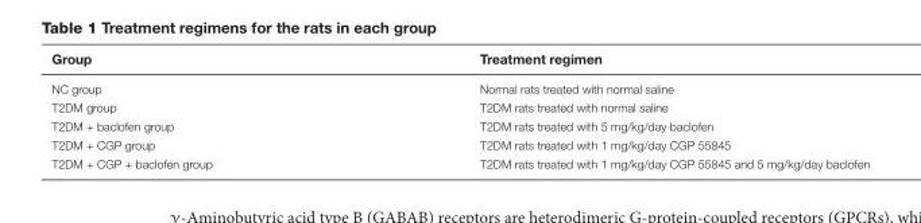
<table><thead><tr><td>Group</td><td>Treatment regimen</td></tr></thead><tbody><tr><td>NC group</td><td>Normal rats treated with normal saline</td></tr><tr><td>T2DM group</td><td>T2DM rats treated with normal saline</td></tr><tr><td>T2DM + baclofen group</td><td>T2DM rats treated with 5 mg/kg/day baclofen</td></tr><tr><td>T2DM + CGP group</td><td>T2DM rats treated with 1 mg/kg/day CGP 55845</td></tr><tr><td>T2DM + CGP + baclofen group</td><td>T2DM rats treated with 1 mg/kg/day CGP 55845 and 5 mg/kg/day baclofen</td></tr></tbody></table>